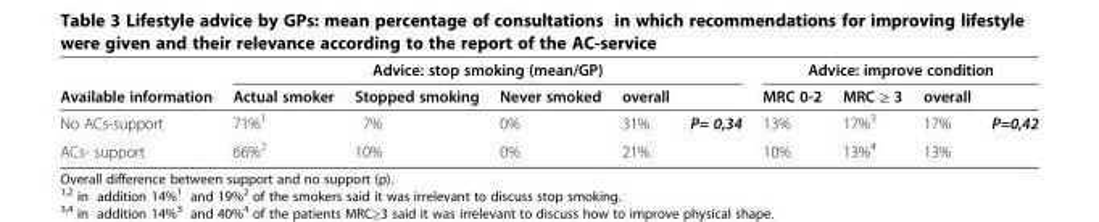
<table><thead><tr><td rowspan="2">Available information</td><td colspan="5">Advice: stop smoking (mean/GP)</td><td colspan="4">Advice: improve condition</td></tr><tr><td>Actual smoker</td><td>Stopped smoking</td><td>Never smoked</td><td>overall</td><td></td><td>MRC 0-2</td><td>MRC ≥ 3</td><td>overall</td><td></td></tr></thead><tbody><tr><td>No ACs-support</td><td>71%<sup>1</sup></td><td>7%</td><td>0%</td><td>31%</td><td>P= 0,34</td><td>13%</td><td>17%<sup>3</sup></td><td>17%</td><td>P=0,42</td></tr><tr><td>ACs- support</td><td>66%<sup>2</sup></td><td>10%</td><td>0%</td><td>21%</td><td></td><td>10%</td><td>13%<sup>4</sup></td><td>13%</td><td></td></tr></tbody></table>